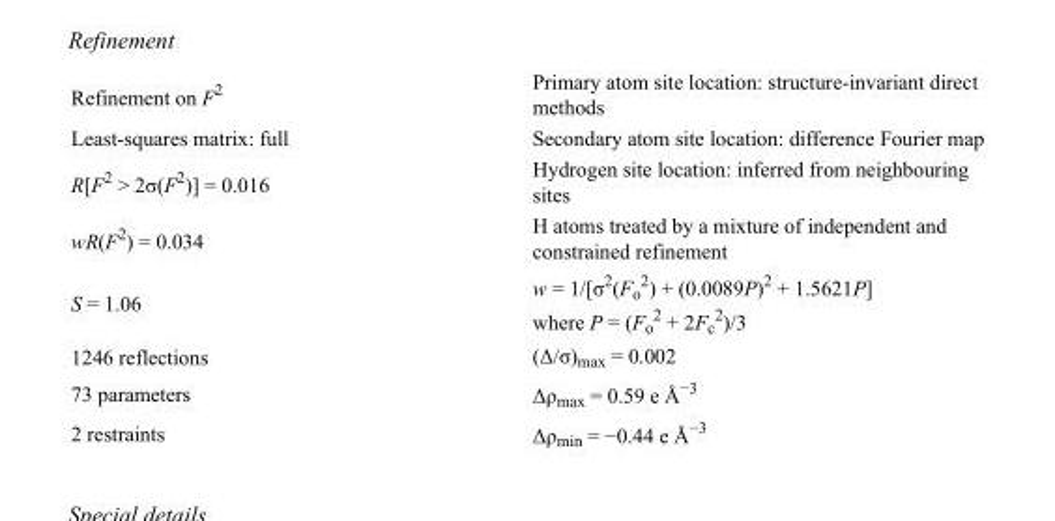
<table><tbody><tr><td>Refinement on F<sup>2</sup></td><td>Primary atom site location: structure-invariant direct methods</td></tr><tr><td>Least-squares matrix: full</td><td>Secondary atom site location: difference Fourier map</td></tr><tr><td>R[F<sup>2</sup> &gt; 2σ(F<sup>2</sup>)] = 0.016</td><td>Hydrogen site location: inferred from neighbouring sites</td></tr><tr><td>wR(F<sup>2</sup>) = 0.034</td><td>H atoms treated by a mixture of independent and constrained refinement</td></tr><tr><td>S = 1.06</td><td>w = 1/[σ<sup>2</sup>(F<sub>o</sub> <sup>2</sup>) + (0.0089P)<sup>2</sup> + 1.5621P] where P = (F<sub>o</sub> <sup>2</sup> + 2F<sub>c</sub> <sup>2</sup>)/3</td></tr><tr><td>1246 reflections</td><td>(Δ/σ)<sub>max</sub> = 0.002</td></tr><tr><td>73 parameters</td><td>Δρ<sub>max</sub> = 0.59 e Å<sup>−3</sup></td></tr><tr><td>2 restraints</td><td>Δρ<sub>min</sub> = −0.44 e Å<sup>−3</sup></td></tr></tbody></table>